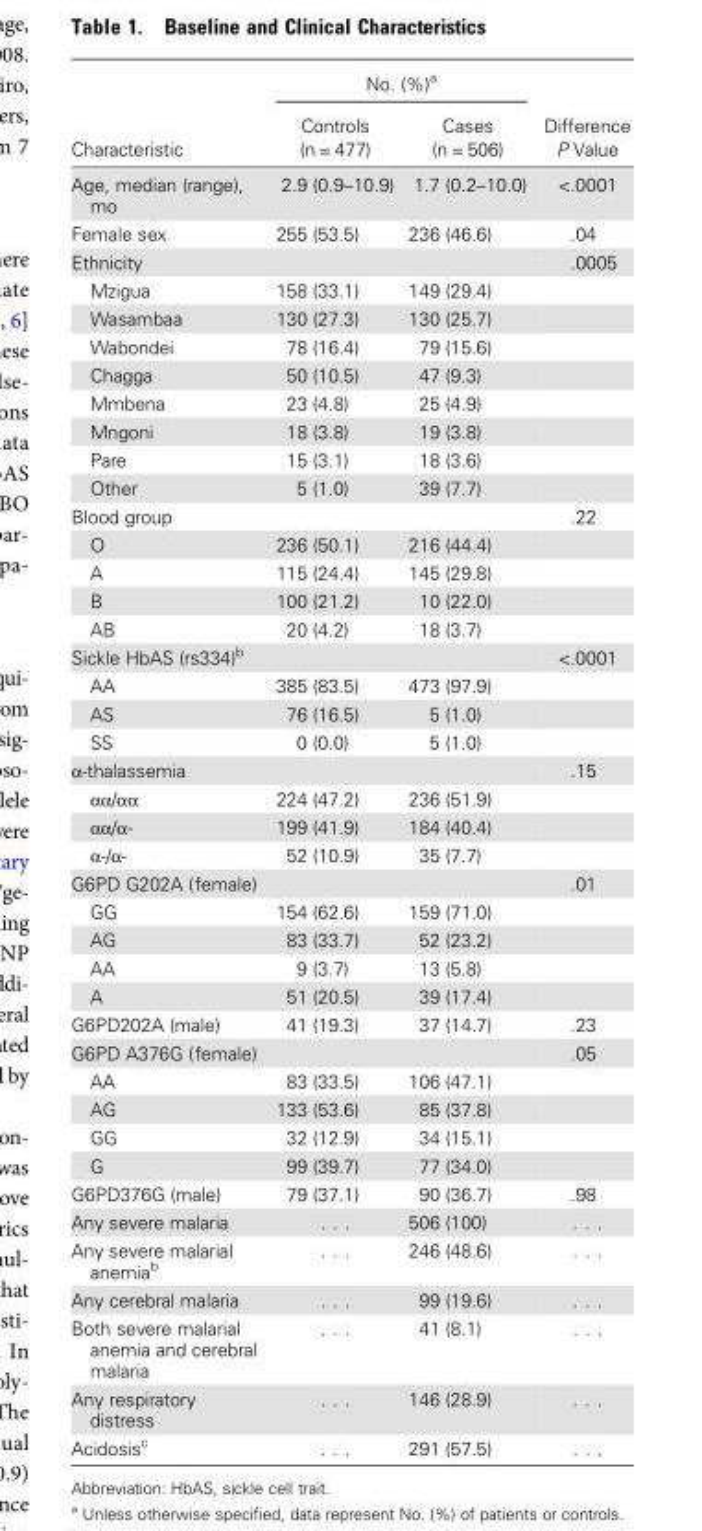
<table><thead><tr><td rowspan="2">Characteristic</td><td colspan="2">No. (%)<sup>a</sup></td><td rowspan="2">Difference P Value</td></tr><tr><td>Controls (n = 477)</td><td>Cases (n = 506)</td></tr></thead><tbody><tr><td>Age, median (range), mo</td><td>2.9 (0.9–10.9)</td><td>1.7 (0.2–10.0)</td><td>&lt;.0001</td></tr><tr><td>Female sex</td><td>255 (53.5)</td><td>236 (46.6)</td><td>.04</td></tr><tr><td>Ethnicity</td><td></td><td></td><td>.0005</td></tr><tr><td>Mzigua</td><td>158 (33.1)</td><td>149 (29.4)</td><td></td></tr><tr><td>Wasambaa</td><td>130 (27.3)</td><td>130 (25.7)</td><td></td></tr><tr><td>Wabondei</td><td>78 (16.4)</td><td>79 (15.6)</td><td></td></tr><tr><td>Chagga</td><td>50 (10.5)</td><td>47 (9.3)</td><td></td></tr><tr><td>Mmbena</td><td>23 (4.8)</td><td>25 (4.9)</td><td></td></tr><tr><td>Mngoni</td><td>18 (3.8)</td><td>19 (3.8)</td><td></td></tr><tr><td>Pare</td><td>15 (3.1)</td><td>18 (3.6)</td><td></td></tr><tr><td>Other</td><td>5 (1.0)</td><td>39 (7.7)</td><td></td></tr><tr><td>Blood group</td><td></td><td></td><td>.22</td></tr><tr><td>O</td><td>236 (50.1)</td><td>216 (44.4)</td><td></td></tr><tr><td>A</td><td>115 (24.4)</td><td>145 (29.8)</td><td></td></tr><tr><td>B</td><td>100 (21.2)</td><td>10 (22.0)</td><td></td></tr><tr><td>AB</td><td>20 (4.2)</td><td>18 (3.7)</td><td></td></tr><tr><td>Sickle HbAS (rs334)<sup>b</sup></td><td></td><td></td><td>&lt;.0001</td></tr><tr><td>AA</td><td>385 (83.5)</td><td>473 (97.9)</td><td></td></tr><tr><td>AS</td><td>76 (16.5)</td><td>5 (1.0)</td><td></td></tr><tr><td>SS</td><td>0 (0.0)</td><td>5 (1.0)</td><td></td></tr><tr><td>α-thalassemia</td><td></td><td></td><td>.15</td></tr><tr><td>αα/αα</td><td>224 (47.2)</td><td>236 (51.9)</td><td></td></tr><tr><td>αα/α-</td><td>199 (41.9)</td><td>184 (40.4)</td><td></td></tr><tr><td>α-/α-</td><td>52 (10.9)</td><td>35 (7.7)</td><td></td></tr><tr><td>G6PD G202A (female)</td><td></td><td></td><td>.01</td></tr><tr><td>GG</td><td>154 (62.6)</td><td>159 (71.0)</td><td></td></tr><tr><td>AG</td><td>83 (33.7)</td><td>52 (23.2)</td><td></td></tr><tr><td>AA</td><td>9 (3.7)</td><td>13 (5.8)</td><td></td></tr><tr><td>A</td><td>51 (20.5)</td><td>39 (17.4)</td><td></td></tr><tr><td>G6PD202A (male)</td><td>41 (19.3)</td><td>37 (14.7)</td><td>.23</td></tr><tr><td>G6PD A376G (female)</td><td></td><td></td><td>.05</td></tr><tr><td>AA</td><td>83 (33.5)</td><td>106 (47.1)</td><td></td></tr><tr><td>AG</td><td>133 (53.6)</td><td>85 (37.8)</td><td></td></tr><tr><td>GG</td><td>32 (12.9)</td><td>34 (15.1)</td><td></td></tr><tr><td>G</td><td>99 (39.7)</td><td>77 (34.0)</td><td></td></tr><tr><td>G6PD376G (male)</td><td>79 (37.1)</td><td>90 (36.7)</td><td>.98</td></tr><tr><td>Any severe malaria</td><td>. . .</td><td>506 (100)</td><td>. . .</td></tr><tr><td>Any severe malarial anemia<sup>b</sup></td><td>. . .</td><td>246 (48.6)</td><td>. . .</td></tr><tr><td>Any cerebral malaria</td><td>. . .</td><td>99 (19.6)</td><td>. . .</td></tr><tr><td>Both severe malarial anemia and cerebral malaria</td><td>. . .</td><td>41 (8.1)</td><td>. . .</td></tr><tr><td>Any respiratory distress</td><td>. . .</td><td>146 (28.9)</td><td>. . .</td></tr><tr><td>Acidosis<sup>c</sup></td><td>. . .</td><td>291 (57.5)</td><td>. . .</td></tr></tbody></table>